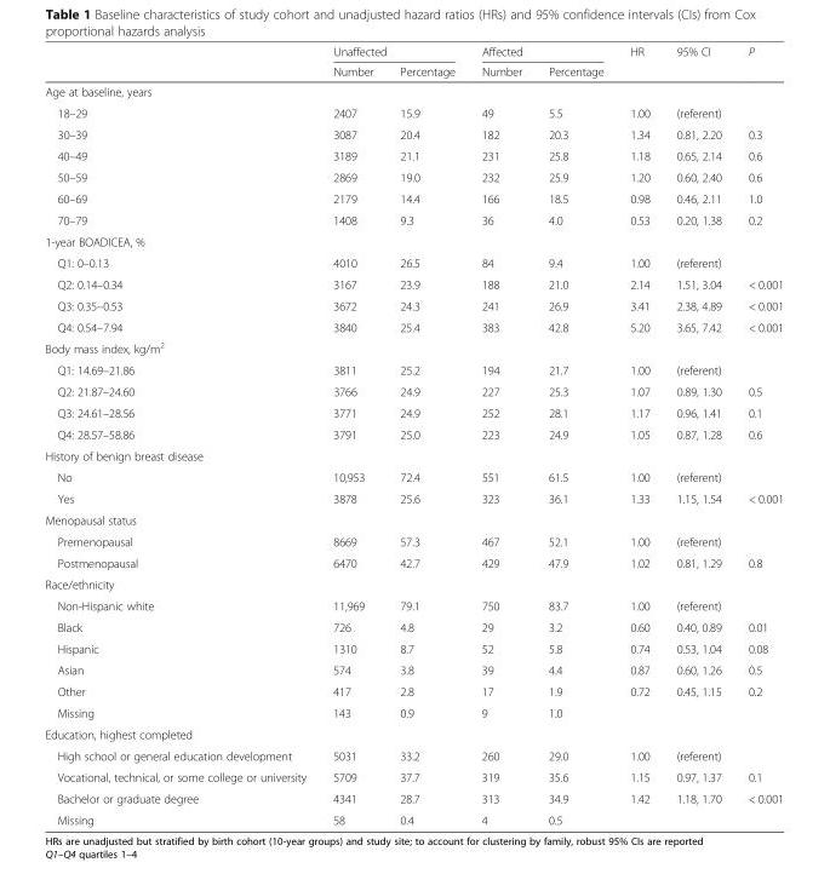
<table><thead><tr><td rowspan="2"></td><td colspan="2">Unaffected</td><td colspan="2">Affected</td><td rowspan="2">HR</td><td rowspan="2">95% CI</td><td rowspan="2">P</td></tr><tr><td>Number</td><td>Percentage</td><td>Number</td><td>Percentage</td></tr></thead><tbody><tr><td colspan="8">Age at baseline, years</td></tr><tr><td>18–29</td><td>2407</td><td>15.9</td><td>49</td><td>5.5</td><td>1.00</td><td>(referent)</td><td></td></tr><tr><td>30–39</td><td>3087</td><td>20.4</td><td>182</td><td>20.3</td><td>1.34</td><td>0.81, 2.20</td><td>0.3</td></tr><tr><td>40–49</td><td>3189</td><td>21.1</td><td>231</td><td>25.8</td><td>1.18</td><td>0.65, 2.14</td><td>0.6</td></tr><tr><td>50–59</td><td>2869</td><td>19.0</td><td>232</td><td>25.9</td><td>1.20</td><td>0.60, 2.40</td><td>0.6</td></tr><tr><td>60–69</td><td>2179</td><td>14.4</td><td>166</td><td>18.5</td><td>0.98</td><td>0.46, 2.11</td><td>1.0</td></tr><tr><td>70–79</td><td>1408</td><td>9.3</td><td>36</td><td>4.0</td><td>0.53</td><td>0.20, 1.38</td><td>0.2</td></tr><tr><td colspan="8">1-year BOADICEA, %</td></tr><tr><td>Q1: 0–0.13</td><td>4010</td><td>26.5</td><td>84</td><td>9.4</td><td>1.00</td><td>(referent)</td><td></td></tr><tr><td>Q2: 0.14–0.34</td><td>3167</td><td>23.9</td><td>188</td><td>21.0</td><td>2.14</td><td>1.51, 3.04</td><td>&lt; 0.001</td></tr><tr><td>Q3: 0.35–0.53</td><td>3672</td><td>24.3</td><td>241</td><td>26.9</td><td>3.41</td><td>2.38, 4.89</td><td>&lt; 0.001</td></tr><tr><td>Q4: 0.54–7.94</td><td>3840</td><td>25.4</td><td>383</td><td>42.8</td><td>5.20</td><td>3.65, 7.42</td><td>&lt; 0.001</td></tr><tr><td colspan="8">Body mass index, kg/m<sup>2</sup></td></tr><tr><td>Q1: 14.69–21.86</td><td>3811</td><td>25.2</td><td>194</td><td>21.7</td><td>1.00</td><td>(referent)</td><td></td></tr><tr><td>Q2: 21.87–24.60</td><td>3766</td><td>24.9</td><td>227</td><td>25.3</td><td>1.07</td><td>0.89, 1.30</td><td>0.5</td></tr><tr><td>Q3: 24.61–28.56</td><td>3771</td><td>24.9</td><td>252</td><td>28.1</td><td>1.17</td><td>0.96, 1.41</td><td>0.1</td></tr><tr><td>Q4: 28.57–58.86</td><td>3791</td><td>25.0</td><td>223</td><td>24.9</td><td>1.05</td><td>0.87, 1.28</td><td>0.6</td></tr><tr><td colspan="8">History of benign breast disease</td></tr><tr><td>No</td><td>10,953</td><td>72.4</td><td>551</td><td>61.5</td><td>1.00</td><td>(referent)</td><td></td></tr><tr><td>Yes</td><td>3878</td><td>25.6</td><td>323</td><td>36.1</td><td>1.33</td><td>1.15, 1.54</td><td>&lt; 0.001</td></tr><tr><td colspan="8">Menopausal status</td></tr><tr><td>Premenopausal</td><td>8669</td><td>57.3</td><td>467</td><td>52.1</td><td>1.00</td><td>(referent)</td><td></td></tr><tr><td>Postmenopausal</td><td>6470</td><td>42.7</td><td>429</td><td>47.9</td><td>1.02</td><td>0.81, 1.29</td><td>0.8</td></tr><tr><td colspan="8">Race/ethnicity</td></tr><tr><td>Non-Hispanic white</td><td>11,969</td><td>79.1</td><td>750</td><td>83.7</td><td>1.00</td><td>(referent)</td><td></td></tr><tr><td>Black</td><td>726</td><td>4.8</td><td>29</td><td>3.2</td><td>0.60</td><td>0.40, 0.89</td><td>0.01</td></tr><tr><td>Hispanic</td><td>1310</td><td>8.7</td><td>52</td><td>5.8</td><td>0.74</td><td>0.53, 1.04</td><td>0.08</td></tr><tr><td>Asian</td><td>574</td><td>3.8</td><td>39</td><td>4.4</td><td>0.87</td><td>0.60, 1.26</td><td>0.5</td></tr><tr><td>Other</td><td>417</td><td>2.8</td><td>17</td><td>1.9</td><td>0.72</td><td>0.45, 1.15</td><td>0.2</td></tr><tr><td>Missing</td><td>143</td><td>0.9</td><td>9</td><td>1.0</td><td></td><td></td><td></td></tr><tr><td colspan="8">Education, highest completed</td></tr><tr><td>High school or general education development</td><td>5031</td><td>33.2</td><td>260</td><td>29.0</td><td>1.00</td><td>(referent)</td><td></td></tr><tr><td>Vocational, technical, or some college or university</td><td>5709</td><td>37.7</td><td>319</td><td>35.6</td><td>1.15</td><td>0.97, 1.37</td><td>0.1</td></tr><tr><td>Bachelor or graduate degree</td><td>4341</td><td>28.7</td><td>313</td><td>34.9</td><td>1.42</td><td>1.18, 1.70</td><td>&lt; 0.001</td></tr><tr><td>Missing</td><td>58</td><td>0.4</td><td>4</td><td>0.5</td><td></td><td></td><td></td></tr></tbody></table>